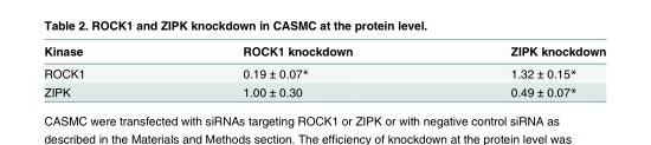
<table><thead><tr><td>Kinase</td><td>ROCK1 knockdown</td><td>ZIPK knockdown</td></tr></thead><tbody><tr><td>ROCK1</td><td>0.19 ± 0.07*</td><td>1.32 ± 0.15*</td></tr><tr><td>ZIPK</td><td>1.00 ± 0.30</td><td>0.49 ± 0.07*</td></tr></tbody></table>